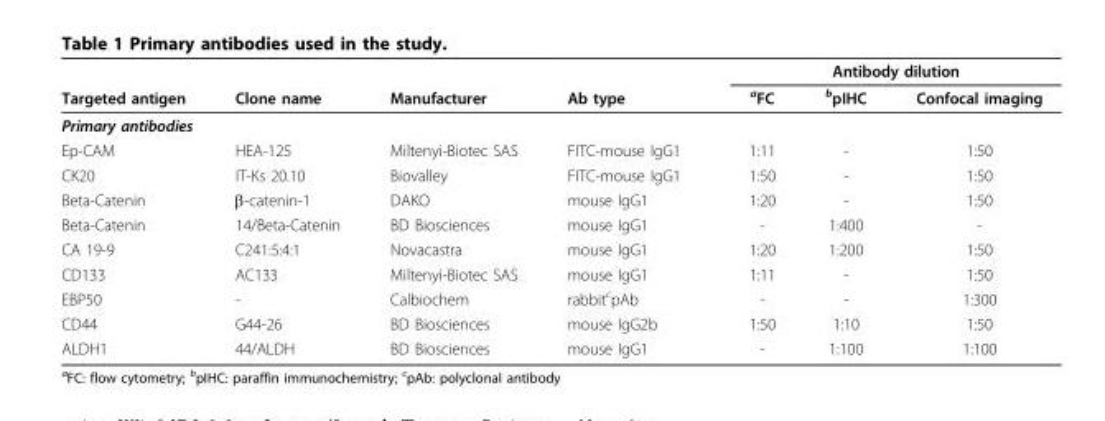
<table><thead><tr><td rowspan="2">Targeted antigen</td><td rowspan="2">Clone name</td><td rowspan="2">Manufacturer</td><td rowspan="2">Ab type</td><td colspan="3">Antibody dilution</td></tr><tr><td><sup>a</sup>FC</td><td><sup>b</sup>pIHC</td><td>Confocal imaging</td></tr></thead><tbody><tr><td colspan="7">Primary antibodies</td></tr><tr><td>Ep-CAM</td><td>HEA-125</td><td>Miltenyi-Biotec SAS</td><td>FITC-mouse IgG1</td><td>1:11</td><td>-</td><td>1:50</td></tr><tr><td>CK20</td><td>IT-Ks 20.10</td><td>Biovalley</td><td>FITC-mouse IgG1</td><td>1:50</td><td>-</td><td>1:50</td></tr><tr><td>Beta-Catenin</td><td>β-catenin-1</td><td>DAKO</td><td>mouse IgG1</td><td>1:20</td><td>-</td><td>1:50</td></tr><tr><td>Beta-Catenin</td><td>14/Beta-Catenin</td><td>BD Biosciences</td><td>mouse IgG1</td><td>-</td><td>1:400</td><td>-</td></tr><tr><td>CA 19-9</td><td>C241:5:4:1</td><td>Novacastra</td><td>mouse IgG1</td><td>1:20</td><td>1:200</td><td>1:50</td></tr><tr><td>CD133</td><td>AC133</td><td>Miltenyi-Biotec SAS</td><td>mouse IgG1</td><td>1:11</td><td>-</td><td>1:50</td></tr><tr><td>EBP50</td><td>-</td><td>Calbiochem</td><td>rabbit<sup>c</sup>pAb</td><td>-</td><td>-</td><td>1:300</td></tr><tr><td>CD44</td><td>G44-26</td><td>BD Biosciences</td><td>mouse IgG2b</td><td>1:50</td><td>1:10</td><td>1:50</td></tr><tr><td>ALDH1</td><td>44/ALDH</td><td>BD Biosciences</td><td>mouse IgG1</td><td>-</td><td>1:100</td><td>1:100</td></tr></tbody></table>